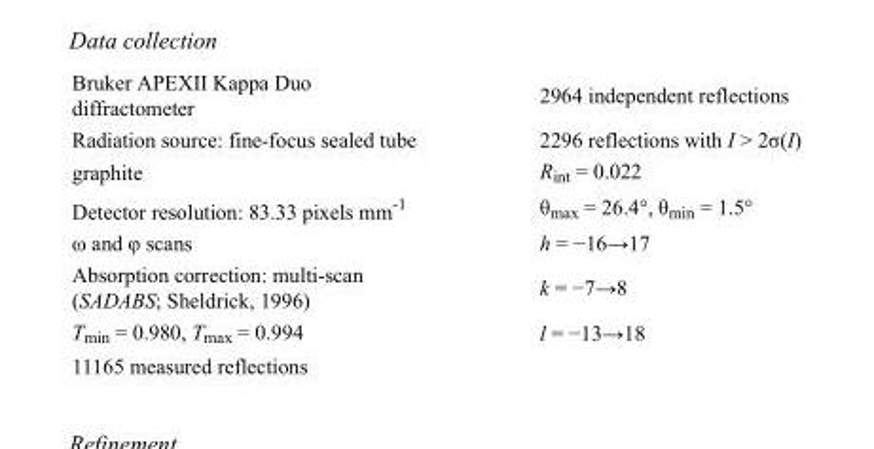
<table><tbody><tr><td>Bruker APEXII Kappa Duo diffractometer</td><td>2964 independent reflections</td></tr><tr><td>Radiation source: fine-focus sealed tube</td><td>2296 reflections with I &gt; 2σ(I)</td></tr><tr><td>graphite</td><td>R<sub>int</sub> = 0.022</td></tr><tr><td>Detector resolution: 83.33 pixels mm<sup>-1</sup></td><td>θ<sub>max</sub> = 26.4°, θ<sub>min</sub> = 1.5°</td></tr><tr><td>ω and φ scans</td><td>h = −16→17</td></tr><tr><td>Absorption correction: multi-scan (SADABS; Sheldrick, 1996)</td><td>k = −7→8</td></tr><tr><td>T<sub>min</sub> = 0.980, T<sub>max</sub> = 0.994</td><td>l = −13→18</td></tr><tr><td>11165 measured reflections</td><td></td></tr></tbody></table>